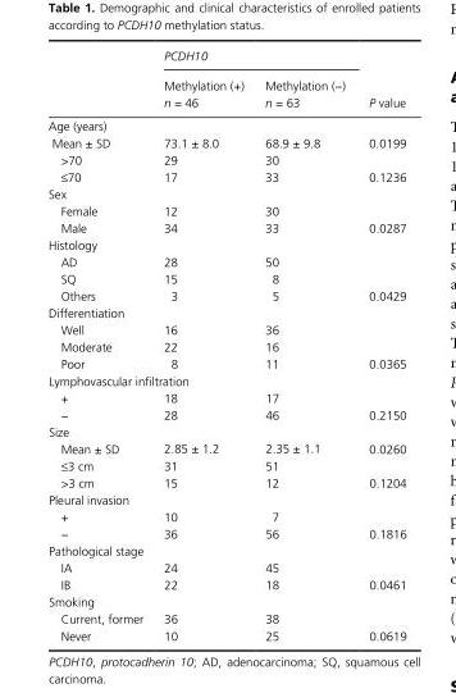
<table><thead><tr><td rowspan="2"></td><td colspan="2">PCDH10</td><td rowspan="2">P value</td></tr><tr><td>Methylation (+) n = 46</td><td>Methylation (−) n = 63</td></tr></thead><tbody><tr><td colspan="4">Age (years)</td></tr><tr><td>Mean ± SD</td><td>73.1 ± 8.0</td><td>68.9 ± 9.8</td><td>0.0199</td></tr><tr><td>&gt;70</td><td>29</td><td>30</td><td></td></tr><tr><td>≤70</td><td>17</td><td>33</td><td>0.1236</td></tr><tr><td colspan="4">Sex</td></tr><tr><td>Female</td><td>12</td><td>30</td><td></td></tr><tr><td>Male</td><td>34</td><td>33</td><td>0.0287</td></tr><tr><td colspan="4">Histology</td></tr><tr><td>AD</td><td>28</td><td>50</td><td></td></tr><tr><td>SQ</td><td>15</td><td>8</td><td></td></tr><tr><td>Others</td><td>3</td><td>5</td><td>0.0429</td></tr><tr><td colspan="4">Differentiation</td></tr><tr><td>Well</td><td>16</td><td>36</td><td></td></tr><tr><td>Moderate</td><td>22</td><td>16</td><td></td></tr><tr><td>Poor</td><td>8</td><td>11</td><td>0.0365</td></tr><tr><td colspan="4">Lymphovascular infiltration</td></tr><tr><td>+</td><td>18</td><td>17</td><td></td></tr><tr><td>−</td><td>28</td><td>46</td><td>0.2150</td></tr><tr><td colspan="4">Size</td></tr><tr><td>Mean ± SD</td><td>2.85 ± 1.2</td><td>2.35 ± 1.1</td><td>0.0260</td></tr><tr><td>≤3 cm</td><td>31</td><td>51</td><td></td></tr><tr><td>&gt;3 cm</td><td>15</td><td>12</td><td>0.1204</td></tr><tr><td colspan="4">Pleural invasion</td></tr><tr><td>+</td><td>10</td><td>7</td><td></td></tr><tr><td>−</td><td>36</td><td>56</td><td>0.1816</td></tr><tr><td colspan="4">Pathological stage</td></tr><tr><td>IA</td><td>24</td><td>45</td><td></td></tr><tr><td>IB</td><td>22</td><td>18</td><td>0.0461</td></tr><tr><td colspan="4">Smoking</td></tr><tr><td>Current, former</td><td>36</td><td>38</td><td></td></tr><tr><td>Never</td><td>10</td><td>25</td><td>0.0619</td></tr></tbody></table>